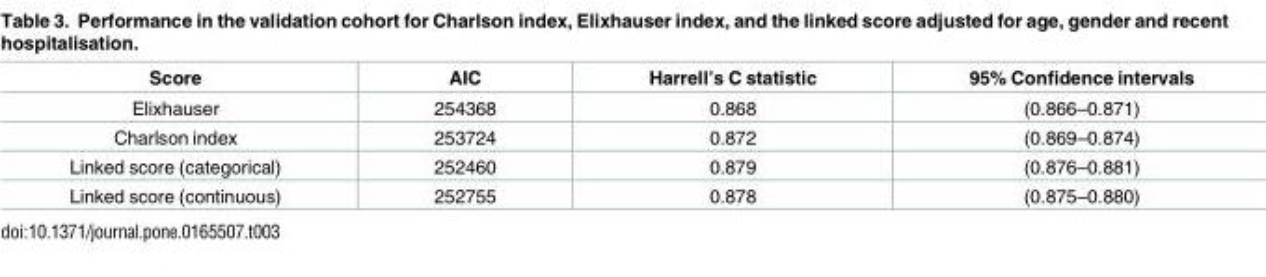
<table><thead><tr><td>Score</td><td>AIC</td><td>Harrell’s C statistic</td><td>95% Confidence intervals</td></tr></thead><tbody><tr><td>Elixhauser</td><td>254368</td><td>0.868</td><td>(0.866–0.871)</td></tr><tr><td>Charlson index</td><td>253724</td><td>0.872</td><td>(0.869–0.874)</td></tr><tr><td>Linked score (categorical)</td><td>252460</td><td>0.879</td><td>(0.876–0.881)</td></tr><tr><td>Linked score (continuous)</td><td>252755</td><td>0.878</td><td>(0.875–0.880)</td></tr></tbody></table>